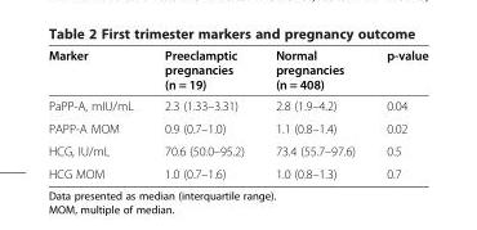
<table><thead><tr><td>Marker</td><td>Preeclamptic pregnancies (n = 19)</td><td>Normal pregnancies (n = 408)</td><td>p-value</td></tr></thead><tbody><tr><td>PaPP-A, mIU/mL</td><td>2.3 (1.33–3.31)</td><td>2.8 (1.9–4.2)</td><td>0.04</td></tr><tr><td>PAPP-A MOM</td><td>0.9 (0.7–1.0)</td><td>1.1 (0.8–1.4)</td><td>0.02</td></tr><tr><td>HCG, IU/mL</td><td>70.6 (50.0–95.2)</td><td>73.4 (55.7–97.6)</td><td>0.5</td></tr><tr><td>HCG MOM</td><td>1.0 (0.7–1.6)</td><td>1.0 (0.8–1.3)</td><td>0.7</td></tr></tbody></table>